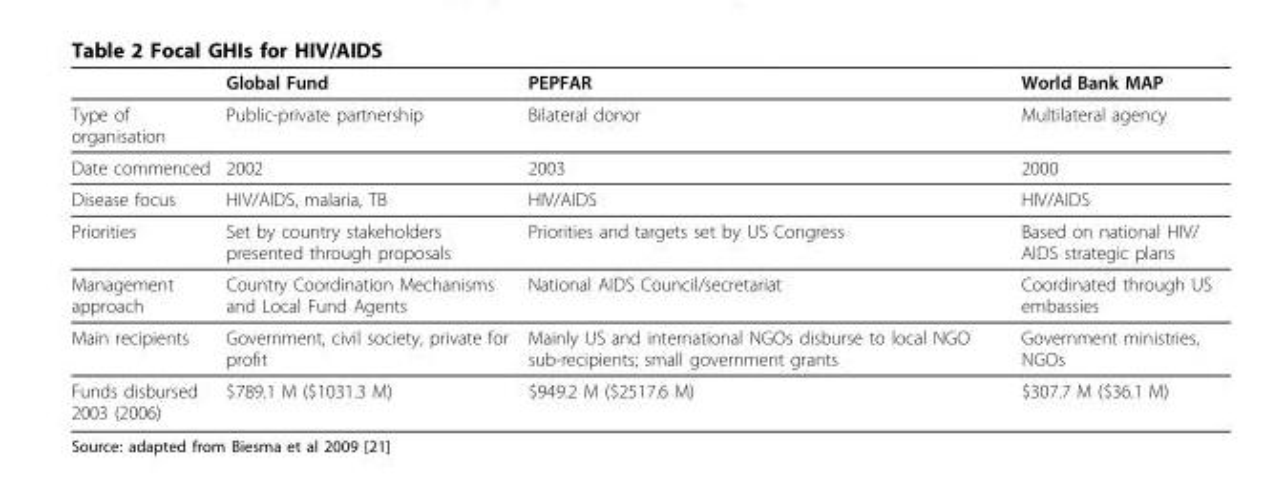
<table><thead><tr><td></td><td>Global Fund</td><td>PEPFAR</td><td>World Bank MAP</td></tr></thead><tbody><tr><td>Type of organisation</td><td>Public-private partnership</td><td>Bilateral donor</td><td>Multilateral agency</td></tr><tr><td>Date commenced</td><td>2002</td><td>2003</td><td>2000</td></tr><tr><td>Disease focus</td><td>HIV/AIDS, malaria, TB</td><td>HIV/AIDS</td><td>HIV/AIDS</td></tr><tr><td>Priorities</td><td>Set by country stakeholders presented through proposals</td><td>Priorities and targets set by US Congress</td><td>Based on national HIV/ AIDS strategic plans</td></tr><tr><td>Management approach</td><td>Country Coordination Mechanisms and Local Fund Agents</td><td>National AIDS Council/secretariat</td><td>Coordinated through US embassies</td></tr><tr><td>Main recipients</td><td>Government, civil society, private for profit</td><td>Mainly US and international NGOs disburse to local NGO sub-recipients; small government grants</td><td>Government ministries, NGOs</td></tr><tr><td>Funds disbursed 2003 (2006)</td><td>$789.1 M ($1031.3 M)</td><td>$949.2 M ($2517.6 M)</td><td>$307.7 M ($36.1 M)</td></tr></tbody></table>